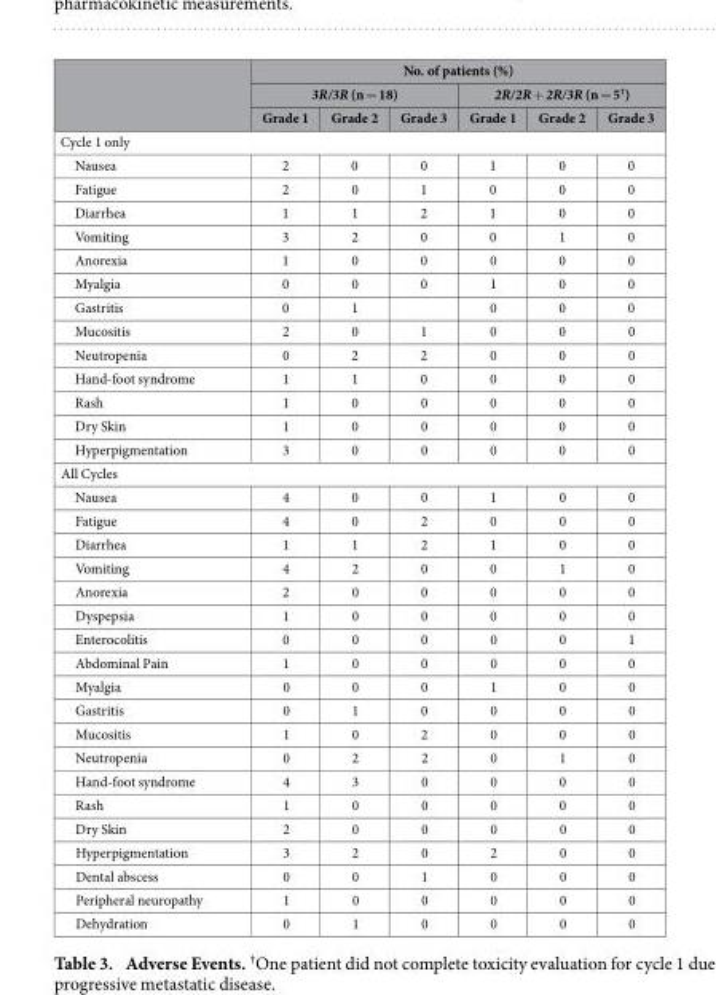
<table><thead><tr><td rowspan="3"></td><td colspan="6">No. of patients (%)</td></tr><tr><td colspan="3">3R/3R (n = 18)</td><td colspan="3">2R/2R + 2R/3R (n = 5†)</td></tr><tr><td>Grade 1</td><td>Grade 2</td><td>Grade 3</td><td>Grade 1</td><td>Grade 2</td><td>Grade 3</td></tr></thead><tbody><tr><td colspan="7">Cycle 1 only</td></tr><tr><td>Nausea</td><td>2</td><td>0</td><td>0</td><td>1</td><td>0</td><td>0</td></tr><tr><td>Fatigue</td><td>2</td><td>0</td><td>1</td><td>0</td><td>0</td><td>0</td></tr><tr><td>Diarrhea</td><td>1</td><td>1</td><td>2</td><td>1</td><td>0</td><td>0</td></tr><tr><td>Vomiting</td><td>3</td><td>2</td><td>0</td><td>0</td><td>1</td><td>0</td></tr><tr><td>Anorexia</td><td>1</td><td>0</td><td>0</td><td>0</td><td>0</td><td>0</td></tr><tr><td>Myalgia</td><td>0</td><td>0</td><td>0</td><td>1</td><td>0</td><td>0</td></tr><tr><td>Gastritis</td><td>0</td><td>1</td><td></td><td>0</td><td>0</td><td>0</td></tr><tr><td>Mucositis</td><td>2</td><td>0</td><td>1</td><td>0</td><td>0</td><td>0</td></tr><tr><td>Neutropenia</td><td>0</td><td>2</td><td>2</td><td>0</td><td>0</td><td>0</td></tr><tr><td>Hand-foot syndrome</td><td>1</td><td>1</td><td>0</td><td>0</td><td>0</td><td>0</td></tr><tr><td>Rash</td><td>1</td><td>0</td><td>0</td><td>0</td><td>0</td><td>0</td></tr><tr><td>Dry Skin</td><td>1</td><td>0</td><td>0</td><td>0</td><td>0</td><td>0</td></tr><tr><td>Hyperpigmentation</td><td>3</td><td>0</td><td>0</td><td>0</td><td>0</td><td>0</td></tr><tr><td colspan="7">All Cycles</td></tr><tr><td>Nausea</td><td>4</td><td>0</td><td>0</td><td>1</td><td>0</td><td>0</td></tr><tr><td>Fatigue</td><td>4</td><td>0</td><td>2</td><td>0</td><td>0</td><td>0</td></tr><tr><td>Diarrhea</td><td>1</td><td>1</td><td>2</td><td>1</td><td>0</td><td>0</td></tr><tr><td>Vomiting</td><td>4</td><td>2</td><td>0</td><td>0</td><td>1</td><td>0</td></tr><tr><td>Anorexia</td><td>2</td><td>0</td><td>0</td><td>0</td><td>0</td><td>0</td></tr><tr><td>Dyspepsia</td><td>1</td><td>0</td><td>0</td><td>0</td><td>0</td><td>0</td></tr><tr><td>Enterocolitis</td><td>0</td><td>0</td><td>0</td><td>0</td><td>0</td><td>1</td></tr><tr><td>Abdominal Pain</td><td>1</td><td>0</td><td>0</td><td>0</td><td>0</td><td>0</td></tr><tr><td>Myalgia</td><td>0</td><td>0</td><td>0</td><td>1</td><td>0</td><td>0</td></tr><tr><td>Gastritis</td><td>0</td><td>1</td><td>0</td><td>0</td><td>0</td><td>0</td></tr><tr><td>Mucositis</td><td>1</td><td>0</td><td>2</td><td>0</td><td>0</td><td>0</td></tr><tr><td>Neutropenia</td><td>0</td><td>2</td><td>2</td><td>0</td><td>1</td><td>0</td></tr><tr><td>Hand-foot syndrome</td><td>4</td><td>3</td><td>0</td><td>0</td><td>0</td><td>0</td></tr><tr><td>Rash</td><td>1</td><td>0</td><td>0</td><td>0</td><td>0</td><td>0</td></tr><tr><td>Dry Skin</td><td>2</td><td>0</td><td>0</td><td>0</td><td>0</td><td>0</td></tr><tr><td>Hyperpigmentation</td><td>3</td><td>2</td><td>0</td><td>2</td><td>0</td><td>0</td></tr><tr><td>Dental abscess</td><td>0</td><td>0</td><td>1</td><td>0</td><td>0</td><td>0</td></tr><tr><td>Peripheral neuropathy</td><td>1</td><td>0</td><td>0</td><td>0</td><td>0</td><td>0</td></tr><tr><td>Dehydration</td><td>0</td><td>1</td><td>0</td><td>0</td><td>0</td><td>0</td></tr></tbody></table>